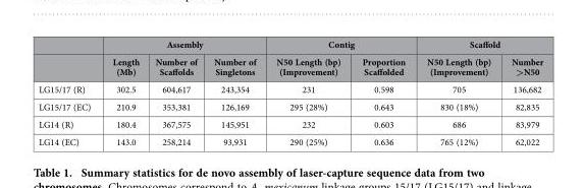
<table><thead><tr><td rowspan="2"></td><td colspan="3">Assembly</td><td colspan="2">Contig</td><td colspan="2">Scaffold</td></tr><tr><td>Length (Mb)</td><td>Number of Scaffolds</td><td>Number of Singletons</td><td>N50 Length (bp) (Improvement)</td><td>Proportion Scaffolded</td><td>N50 Length (bp) (Improvement)</td><td>Number &gt;N50</td></tr></thead><tbody><tr><td>LG15/17 (R)</td><td>302.5</td><td>604,617</td><td>243,354</td><td>231</td><td>0.598</td><td>705</td><td>136,682</td></tr><tr><td>LG15/17 (EC)</td><td>210.9</td><td>353,381</td><td>126,169</td><td>295 (28%)</td><td>0.643</td><td>830 (18%)</td><td>82,835</td></tr><tr><td>LG14 (R)</td><td>180.4</td><td>367,575</td><td>145,951</td><td>232</td><td>0.603</td><td>686</td><td>83,979</td></tr><tr><td>LG14 (EC)</td><td>143.0</td><td>258,214</td><td>93,931</td><td>290 (25%)</td><td>0.636</td><td>765 (12%)</td><td>62,022</td></tr></tbody></table>